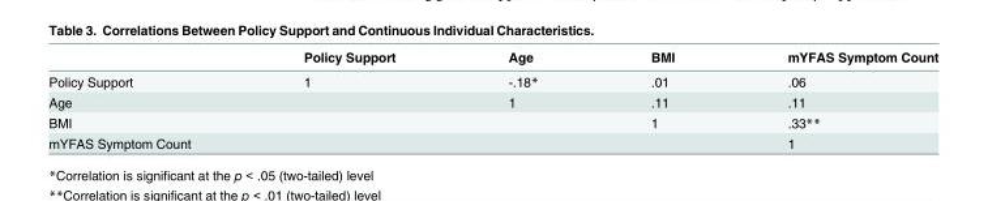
<table><thead><tr><td></td><td>Policy Support</td><td>Age</td><td>BMI</td><td>mYFAS Symptom Count</td></tr></thead><tbody><tr><td>Policy Support</td><td>1</td><td>-.18*</td><td>.01</td><td>.06</td></tr><tr><td>Age</td><td></td><td>1</td><td>.11</td><td>.11</td></tr><tr><td>BMI</td><td></td><td></td><td>1</td><td>.33**</td></tr><tr><td>mYFAS Symptom Count</td><td></td><td></td><td></td><td>1</td></tr></tbody></table>